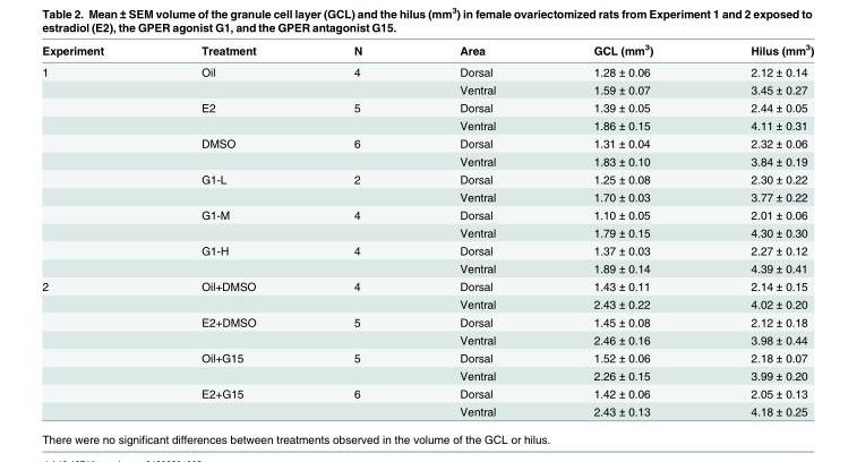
<table><thead><tr><td>Experiment</td><td>Treatment</td><td>N</td><td>Area</td><td>GCL (mm<sup>3</sup>)</td><td>Hilus (mm<sup>3</sup>)</td></tr></thead><tbody><tr><td rowspan="12">1</td><td>Oil</td><td>4</td><td>Dorsal</td><td>1.28 ± 0.06</td><td>2.12 ± 0.14</td></tr><tr><td></td><td></td><td>Ventral</td><td>1.59 ± 0.07</td><td>3.45 ± 0.27</td></tr><tr><td>E2</td><td>5</td><td>Dorsal</td><td>1.39 ± 0.05</td><td>2.44 ± 0.05</td></tr><tr><td></td><td></td><td>Ventral</td><td>1.86 ± 0.15</td><td>4.11 ± 0.31</td></tr><tr><td>DMSO</td><td>6</td><td>Dorsal</td><td>1.31 ± 0.04</td><td>2.32 ± 0.06</td></tr><tr><td></td><td></td><td>Ventral</td><td>1.83 ± 0.10</td><td>3.84 ± 0.19</td></tr><tr><td>G1-L</td><td>2</td><td>Dorsal</td><td>1.25 ± 0.08</td><td>2.30 ± 0.22</td></tr><tr><td></td><td></td><td>Ventral</td><td>1.70 ± 0.03</td><td>3.77 ± 0.22</td></tr><tr><td>G1-M</td><td>4</td><td>Dorsal</td><td>1.10 ± 0.05</td><td>2.01 ± 0.06</td></tr><tr><td></td><td></td><td>Ventral</td><td>1.79 ± 0.15</td><td>4.30 ± 0.30</td></tr><tr><td>G1-H</td><td>4</td><td>Dorsal</td><td>1.37 ± 0.03</td><td>2.27 ± 0.12</td></tr><tr><td></td><td></td><td>Ventral</td><td>1.89 ± 0.14</td><td>4.39 ± 0.41</td></tr><tr><td rowspan="8">2</td><td>Oil+DMSO</td><td>4</td><td>Dorsal</td><td>1.43 ± 0.11</td><td>2.14 ± 0.15</td></tr><tr><td></td><td></td><td>Ventral</td><td>2.43 ± 0.22</td><td>4.02 ± 0.20</td></tr><tr><td>E2+DMSO</td><td>5</td><td>Dorsal</td><td>1.45 ± 0.08</td><td>2.12 ± 0.18</td></tr><tr><td></td><td></td><td>Ventral</td><td>2.46 ± 0.16</td><td>3.98 ± 0.44</td></tr><tr><td>Oil+G15</td><td>5</td><td>Dorsal</td><td>1.52 ± 0.06</td><td>2.18 ± 0.07</td></tr><tr><td></td><td></td><td>Ventral</td><td>2.26 ± 0.15</td><td>3.99 ± 0.20</td></tr><tr><td>E2+G15</td><td>6</td><td>Dorsal</td><td>1.42 ± 0.06</td><td>2.05 ± 0.13</td></tr><tr><td></td><td></td><td>Ventral</td><td>2.43 ± 0.13</td><td>4.18 ± 0.25</td></tr></tbody></table>